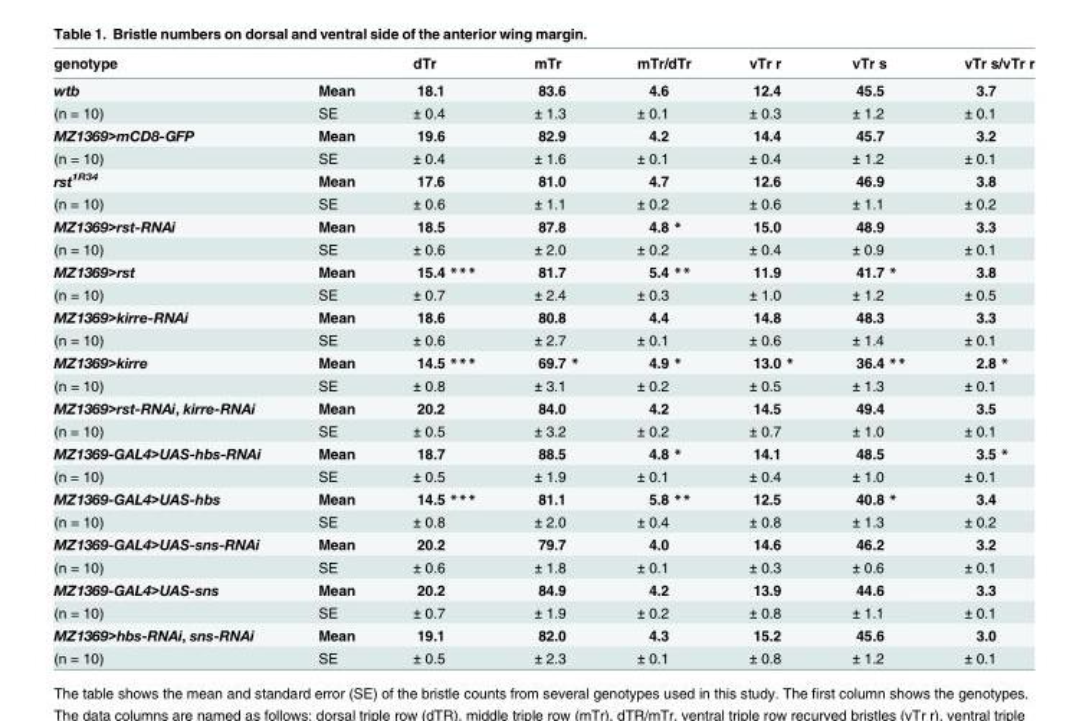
<table><thead><tr><td>genotype</td><td></td><td>dTr</td><td>mTr</td><td>mTr/dTr</td><td>vTr r</td><td>vTr s</td><td>vTr s/vTr r</td></tr></thead><tbody><tr><td>wtb</td><td>Mean</td><td>18.1</td><td>83.6</td><td>4.6</td><td>12.4</td><td>45.5</td><td>3.7</td></tr><tr><td>(n = 10)</td><td>SE</td><td>± 0.4</td><td>± 1.3</td><td>± 0.1</td><td>± 0.3</td><td>± 1.2</td><td>± 0.1</td></tr><tr><td>MZ1369&gt;mCD8-GFP</td><td>Mean</td><td>19.6</td><td>82.9</td><td>4.2</td><td>14.4</td><td>45.7</td><td>3.2</td></tr><tr><td>(n = 10)</td><td>SE</td><td>± 0.4</td><td>± 1.6</td><td>± 0.1</td><td>± 0.4</td><td>± 1.2</td><td>± 0.1</td></tr><tr><td>rst<sup>1R34</sup></td><td>Mean</td><td>17.6</td><td>81.0</td><td>4.7</td><td>12.6</td><td>46.9</td><td>3.8</td></tr><tr><td>(n = 10)</td><td>SE</td><td>± 0.6</td><td>± 1.1</td><td>± 0.2</td><td>± 0.6</td><td>± 1.1</td><td>± 0.2</td></tr><tr><td>MZ1369&gt;rst-RNAi</td><td>Mean</td><td>18.5</td><td>87.8</td><td>4.8 *</td><td>15.0</td><td>48.9</td><td>3.3</td></tr><tr><td>(n = 10)</td><td>SE</td><td>± 0.6</td><td>± 2.0</td><td>± 0.2</td><td>± 0.4</td><td>± 0.9</td><td>± 0.1</td></tr><tr><td>MZ1369&gt;rst</td><td>Mean</td><td>15.4 ***</td><td>81.7</td><td>5.4 **</td><td>11.9</td><td>41.7 *</td><td>3.8</td></tr><tr><td>(n = 10)</td><td>SE</td><td>± 0.7</td><td>± 2.4</td><td>± 0.3</td><td>± 1.0</td><td>± 1.2</td><td>± 0.5</td></tr><tr><td>MZ1369&gt;kirre-RNAi</td><td>Mean</td><td>18.6</td><td>80.8</td><td>4.4</td><td>14.8</td><td>48.3</td><td>3.3</td></tr><tr><td>(n = 10)</td><td>SE</td><td>± 0.6</td><td>± 2.7</td><td>± 0.1</td><td>± 0.6</td><td>± 1.4</td><td>± 0.1</td></tr><tr><td>MZ1369&gt;kirre</td><td>Mean</td><td>14.5 ***</td><td>69.7 *</td><td>4.9 *</td><td>13.0 *</td><td>36.4 **</td><td>2.8 *</td></tr><tr><td>(n = 10)</td><td>SE</td><td>± 0.8</td><td>± 3.1</td><td>± 0.2</td><td>± 0.5</td><td>± 1.3</td><td>± 0.1</td></tr><tr><td>MZ1369&gt;rst-RNAi, kirre-RNAi</td><td>Mean</td><td>20.2</td><td>84.0</td><td>4.2</td><td>14.5</td><td>49.4</td><td>3.5</td></tr><tr><td>(n = 10)</td><td>SE</td><td>± 0.5</td><td>± 3.2</td><td>± 0.2</td><td>± 0.7</td><td>± 1.0</td><td>± 0.1</td></tr><tr><td>MZ1369-GAL4&gt;UAS-hbs-RNAi</td><td>Mean</td><td>18.7</td><td>88.5</td><td>4.8 *</td><td>14.1</td><td>48.5</td><td>3.5 *</td></tr><tr><td>(n = 10)</td><td>SE</td><td>± 0.5</td><td>± 1.9</td><td>± 0.1</td><td>± 0.4</td><td>± 1.0</td><td>± 0.1</td></tr><tr><td>MZ1369-GAL4&gt;UAS-hbs</td><td>Mean</td><td>14.5 ***</td><td>81.1</td><td>5.8 **</td><td>12.5</td><td>40.8 *</td><td>3.4</td></tr><tr><td>(n = 10)</td><td>SE</td><td>± 0.8</td><td>± 2.0</td><td>± 0.4</td><td>± 0.8</td><td>± 1.3</td><td>± 0.2</td></tr><tr><td>MZ1369-GAL4&gt;UAS-sns-RNAi</td><td>Mean</td><td>20.2</td><td>79.7</td><td>4.0</td><td>14.6</td><td>46.2</td><td>3.2</td></tr><tr><td>(n = 10)</td><td>SE</td><td>± 0.6</td><td>± 1.8</td><td>± 0.1</td><td>± 0.3</td><td>± 0.6</td><td>± 0.1</td></tr><tr><td>MZ1369-GAL4&gt;UAS-sns</td><td>Mean</td><td>20.2</td><td>84.9</td><td>4.2</td><td>13.9</td><td>44.6</td><td>3.3</td></tr><tr><td>(n = 10)</td><td>SE</td><td>± 0.7</td><td>± 1.9</td><td>± 0.2</td><td>± 0.8</td><td>± 1.1</td><td>± 0.1</td></tr><tr><td>MZ1369&gt;hbs-RNAi, sns-RNAi</td><td>Mean</td><td>19.1</td><td>82.0</td><td>4.3</td><td>15.2</td><td>45.6</td><td>3.0</td></tr><tr><td>(n = 10)</td><td>SE</td><td>± 0.5</td><td>± 2.3</td><td>± 0.1</td><td>± 0.8</td><td>± 1.2</td><td>± 0.1</td></tr></tbody></table>